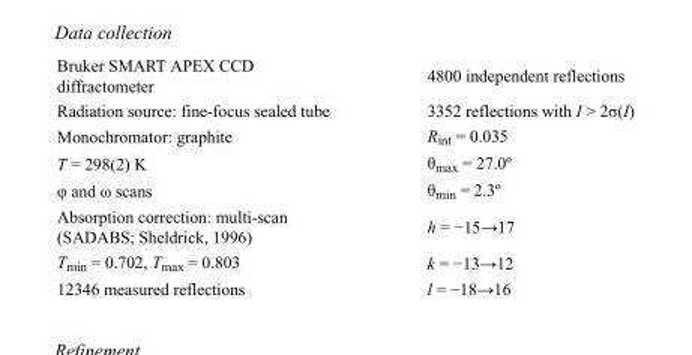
<table><tbody><tr><td>Bruker SMART APEX CCD diffractometer</td><td>4800 independent reflections</td></tr><tr><td>Radiation source: fine-focus sealed tube</td><td>3352 reflections with I &gt; 2σ(I)</td></tr><tr><td>Monochromator: graphite</td><td>R<sub>int</sub> = 0.035</td></tr><tr><td>T = 298(2) K</td><td>θ<sub>max</sub> = 27.0º</td></tr><tr><td>φ and ω scans</td><td>θ<sub>min</sub> = 2.3º</td></tr><tr><td>Absorption correction: multi-scan (SADABS; Sheldrick, 1996)</td><td>h = −15→17</td></tr><tr><td>T<sub>min</sub> = 0.702, T<sub>max</sub> = 0.803</td><td>k = −13→12</td></tr><tr><td>12346 measured reflections</td><td>l = −18→16</td></tr></tbody></table>